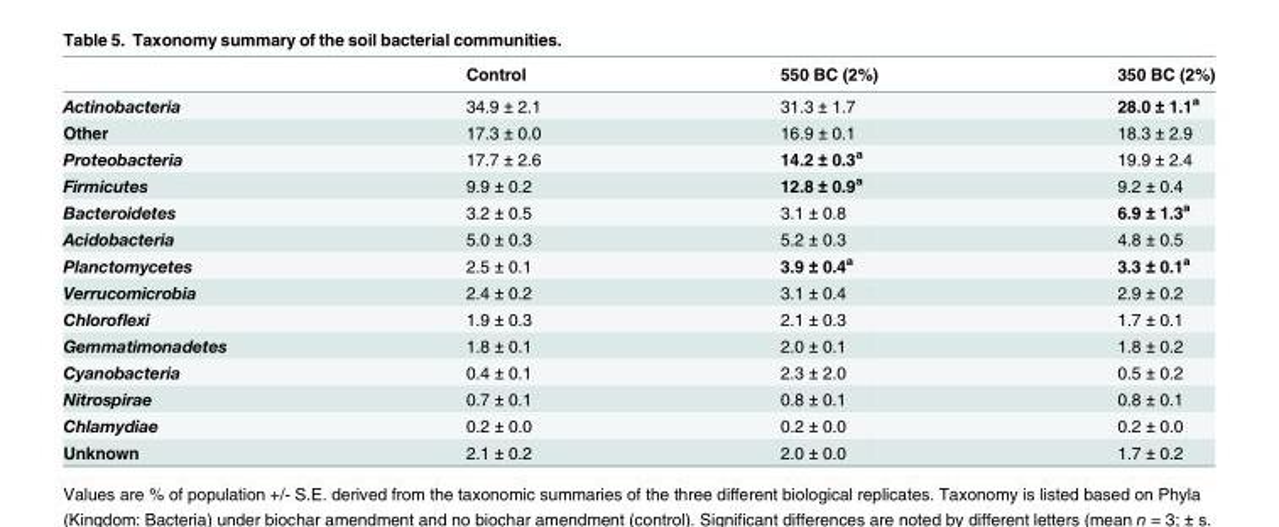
<table><thead><tr><td></td><td>Control</td><td>550 BC (2%)</td><td>350 BC (2%)</td></tr></thead><tbody><tr><td>Actinobacteria</td><td>34.9 ± 2.1</td><td>31.3 ± 1.7</td><td>28.0 ± 1.1<sup>a</sup></td></tr><tr><td>Other</td><td>17.3 ± 0.0</td><td>16.9 ± 0.1</td><td>18.3 ± 2.9</td></tr><tr><td>Proteobacteria</td><td>17.7 ± 2.6</td><td>14.2 ± 0.3<sup>a</sup></td><td>19.9 ± 2.4</td></tr><tr><td>Firmicutes</td><td>9.9 ± 0.2</td><td>12.8 ± 0.9<sup>a</sup></td><td>9.2 ± 0.4</td></tr><tr><td>Bacteroidetes</td><td>3.2 ± 0.5</td><td>3.1 ± 0.8</td><td>6.9 ± 1.3<sup>a</sup></td></tr><tr><td>Acidobacteria</td><td>5.0 ± 0.3</td><td>5.2 ± 0.3</td><td>4.8 ± 0.5</td></tr><tr><td>Planctomycetes</td><td>2.5 ± 0.1</td><td>3.9 ± 0.4<sup>a</sup></td><td>3.3 ± 0.1<sup>a</sup></td></tr><tr><td>Verrucomicrobia</td><td>2.4 ± 0.2</td><td>3.1 ± 0.4</td><td>2.9 ± 0.2</td></tr><tr><td>Chloroflexi</td><td>1.9 ± 0.3</td><td>2.1 ± 0.3</td><td>1.7 ± 0.1</td></tr><tr><td>Gemmatimonadetes</td><td>1.8 ± 0.1</td><td>2.0 ± 0.1</td><td>1.8 ± 0.2</td></tr><tr><td>Cyanobacteria</td><td>0.4 ± 0.1</td><td>2.3 ± 2.0</td><td>0.5 ± 0.2</td></tr><tr><td>Nitrospirae</td><td>0.7 ± 0.1</td><td>0.8 ± 0.1</td><td>0.8 ± 0.1</td></tr><tr><td>Chlamydiae</td><td>0.2 ± 0.0</td><td>0.2 ± 0.0</td><td>0.2 ± 0.0</td></tr><tr><td>Unknown</td><td>2.1 ± 0.2</td><td>2.0 ± 0.0</td><td>1.7 ± 0.2</td></tr></tbody></table>